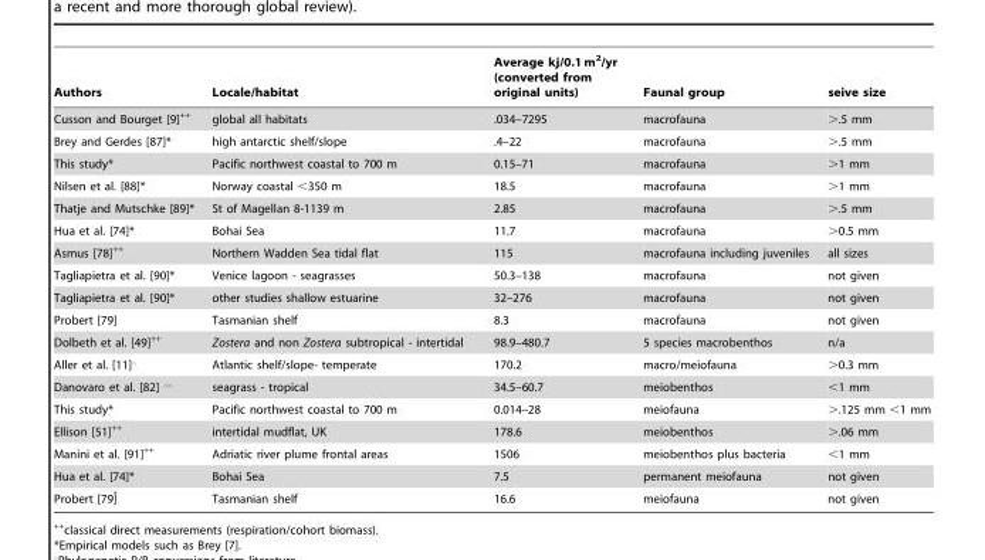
<table><thead><tr><td>Authors</td><td>Locale/habitat</td><td>Average kj/0.1 m<sup>2</sup>/yr (converted from original units)</td><td>Faunal group</td><td>seive size</td></tr></thead><tbody><tr><td>Cusson and Bourget [9]++</td><td>global all habitats</td><td>.034–7295</td><td>macrofauna</td><td>&gt;.5 mm</td></tr><tr><td>Brey and Gerdes [87]*</td><td>high antarctic shelf/slope</td><td>.4–22</td><td>macrofauna</td><td>&gt;.5 mm</td></tr><tr><td>This study*</td><td>Pacific northwest coastal to 700 m</td><td>0.15–71</td><td>macrofauna</td><td>&gt;1 mm</td></tr><tr><td>Nilsen et al. [88]*</td><td>Norway coastal &lt;350 m</td><td>18.5</td><td>macrofauna</td><td>&gt;1 mm</td></tr><tr><td>Thatje and Mutschke [89]*</td><td>St of Magellan 8-1139 m</td><td>2.85</td><td>macrofauna</td><td>&gt;.5 mm</td></tr><tr><td>Hua et al. [74]*</td><td>Bohai Sea</td><td>11.7</td><td>macrofauna</td><td>&gt;0.5 mm</td></tr><tr><td>Asmus [78]++</td><td>Northern Wadden Sea tidal flat</td><td>115</td><td>macrofauna including juveniles</td><td>all sizes</td></tr><tr><td>Tagliapietra et al. [90]*</td><td>Venice lagoon - seagrasses</td><td>50.3–138</td><td>macrofauna</td><td>not given</td></tr><tr><td>Tagliapietra et al. [90]*</td><td>other studies shallow estuarine</td><td>32–276</td><td>macrofauna</td><td>not given</td></tr><tr><td>Probert [79]</td><td>Tasmanian shelf</td><td>8.3</td><td>macrofauna</td><td>not given</td></tr><tr><td>Dolbeth et al. [49]++</td><td>Zostera and non Zostera subtropical - intertidal</td><td>98.9–480.7</td><td>5 species macrobenthos</td><td>n/a</td></tr><tr><td>Aller et al. [11]‘</td><td>Atlantic shelf/slope- temperate</td><td>170.2</td><td>macro/meiofauna</td><td>&gt;0.3 mm</td></tr><tr><td>Danovaro et al. [82] ‘‘</td><td>seagrass - tropical</td><td>34.5–60.7</td><td>meiobenthos</td><td>&lt;1 mm</td></tr><tr><td>This study*</td><td>Pacific northwest coastal to 700 m</td><td>0.014–28</td><td>meiofauna</td><td>&gt;.125 mm &lt;1 mm</td></tr><tr><td>Ellison [51]++</td><td>intertidal mudflat, UK</td><td>178.6</td><td>meiobenthos</td><td>&gt;.06 mm</td></tr><tr><td>Manini et al. [91]++</td><td>Adriatic river plume frontal areas</td><td>1506</td><td>meiobenthos plus bacteria</td><td>&lt;1 mm</td></tr><tr><td>Hua et al. [74]*</td><td>Bohai Sea</td><td>7.5</td><td>permanent meiofauna</td><td>not given</td></tr><tr><td>Probert [79]ˆ</td><td>Tasmanian shelf</td><td>16.6</td><td>meiofauna</td><td>not given</td></tr></tbody></table>